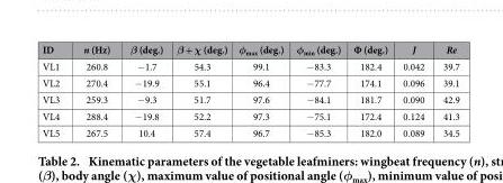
<table><thead><tr><td>ID</td><td>n (Hz)</td><td>β (deg.)</td><td>β + χ (deg.)</td><td>φ<sub>max</sub> (deg.)</td><td>φ<sub>min</sub> (deg.)</td><td>Ф (deg.)</td><td>J</td><td>Re</td></tr></thead><tbody><tr><td>VL1</td><td>260.8</td><td>− 1.7</td><td>54.3</td><td>99.1</td><td>− 83.3</td><td>182.4</td><td>0.042</td><td>39.7</td></tr><tr><td>VL2</td><td>270.4</td><td>− 19.9</td><td>55.1</td><td>96.4</td><td>− 77.7</td><td>174.1</td><td>0.096</td><td>39.1</td></tr><tr><td>VL3</td><td>259.3</td><td>− 9.3</td><td>51.7</td><td>97.6</td><td>− 84.1</td><td>181.7</td><td>0.090</td><td>42.9</td></tr><tr><td>VL4</td><td>288.4</td><td>− 19.8</td><td>52.2</td><td>97.3</td><td>− 75.1</td><td>172.4</td><td>0.124</td><td>41.3</td></tr><tr><td>VL5</td><td>267.5</td><td>10.4</td><td>57.4</td><td>96.7</td><td>− 85.3</td><td>182.0</td><td>0.089</td><td>34.5</td></tr></tbody></table>